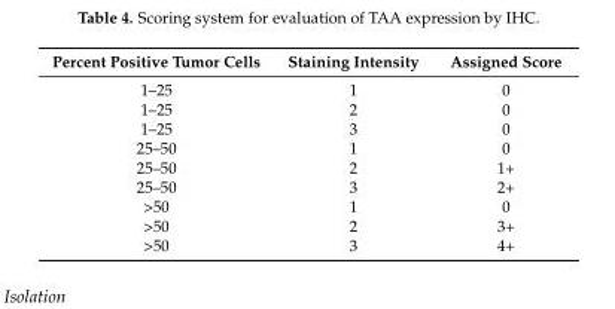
<table><thead><tr><td>Percent Positive Tumor Cells</td><td>Staining Intensity</td><td>Assigned Score</td></tr></thead><tbody><tr><td>1–25</td><td>1</td><td>0</td></tr><tr><td>1–25</td><td>2</td><td>0</td></tr><tr><td>1–25</td><td>3</td><td>0</td></tr><tr><td>25–50</td><td>1</td><td>0</td></tr><tr><td>25–50</td><td>2</td><td>1+</td></tr><tr><td>25–50</td><td>3</td><td>2+</td></tr><tr><td>&gt;50</td><td>1</td><td>0</td></tr><tr><td>&gt;50</td><td>2</td><td>3+</td></tr><tr><td>&gt;50</td><td>3</td><td>4+</td></tr></tbody></table>